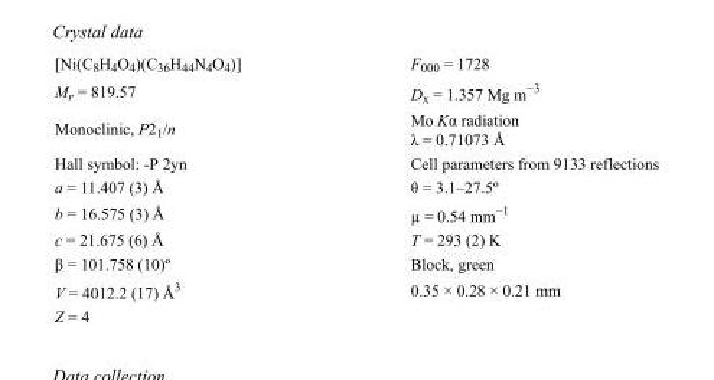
<table><tbody><tr><td>[Ni(C<sub>8</sub>H<sub>4</sub>O<sub>4</sub>)(C<sub>36</sub>H<sub>44</sub>N<sub>4</sub>O<sub>4</sub>)]</td><td>F000 = 1728</td></tr><tr><td>M<sub>r</sub> = 819.57</td><td>D<sub>x</sub> = 1.357 Mg m<sup>−3</sup></td></tr><tr><td>Monoclinic, P2<sub>1</sub>/n</td><td>Mo Kα radiation λ = 0.71073 Å</td></tr><tr><td>Hall symbol: -P 2yn</td><td>Cell parameters from 9133 reflections</td></tr><tr><td>a = 11.407 (3) Å</td><td>θ = 3.1–27.5º</td></tr><tr><td>b = 16.575 (3) Å</td><td>µ = 0.54 mm<sup>−1</sup></td></tr><tr><td>c = 21.675 (6) Å</td><td>T = 293 (2) K</td></tr><tr><td>β = 101.758 (10)º</td><td>Block, green</td></tr><tr><td>V = 4012.2 (17) Å<sup>3</sup></td><td>0.35 × 0.28 × 0.21 mm</td></tr><tr><td>Z = 4</td><td></td></tr></tbody></table>